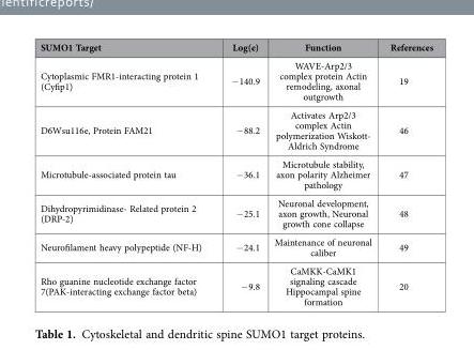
<table><thead><tr><td>SUMO1 Target</td><td>Log(e)</td><td>Function</td><td>References</td></tr></thead><tbody><tr><td>Cytoplasmic FMR1-interacting protein 1 (Cyfip1)</td><td>− 140.9</td><td>WAVE-Arp2/3 complex protein Actin remodeling, axonal outgrowth</td><td>19</td></tr><tr><td>D6Wsu116e, Protein FAM21</td><td>− 88.2</td><td>Activates Arp2/3 complex Actin polymerization Wiskott- Aldrich Syndrome</td><td>46</td></tr><tr><td>Microtubule-associated protein tau</td><td>− 36.1</td><td>Microtubule stability, axon polarity Alzheimer pathology</td><td>47</td></tr><tr><td>Dihydropyrimidinase- Related protein 2 (DRP-2)</td><td>− 25.1</td><td>Neuronal development, axon growth, Neuronal growth cone collapse</td><td>48</td></tr><tr><td>Neurofilament heavy polypeptide (NF-H)</td><td>− 24.1</td><td>Maintenance of neuronal caliber</td><td>49</td></tr><tr><td>Rho guanine nucleotide exchange factor 7(PAK-interacting exchange factor beta)</td><td>− 9.8</td><td>CaMKK-CaMK1 signaling cascade Hippocampal spine formation</td><td>20</td></tr></tbody></table>